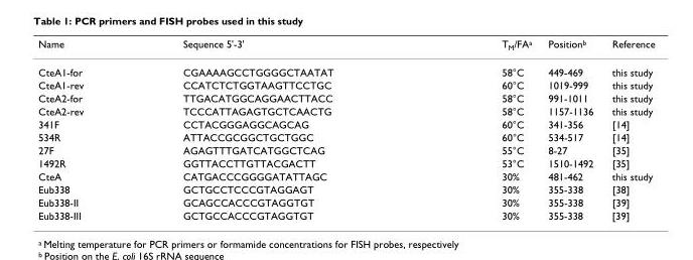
<table><thead><tr><td>Name</td><td>Sequence 5&#x27;-3&#x27;</td><td>TM/FAa</td><td>Positionb</td><td>Reference</td></tr></thead><tbody><tr><td>CteA1-for</td><td>CGAAAAGCCTGGGGCTAATAT</td><td>58°C</td><td>449-469</td><td>this study</td></tr><tr><td>CteA1-rev</td><td>CCATCTCTGGTAAGTTCCTGC</td><td>60°C</td><td>1019-999</td><td>this study</td></tr><tr><td>CteA2-for</td><td>TTGACATGGCAGGAACTTACC</td><td>58°C</td><td>991-1011</td><td>this study</td></tr><tr><td>CteA2-rev</td><td>TCCCATTAGAGTGCTCAACTG</td><td>58°C</td><td>1157-1136</td><td>this study</td></tr><tr><td>341F</td><td>CCTACGGGAGGCAGCAG</td><td>60°C</td><td>341-356</td><td>[14]</td></tr><tr><td>534R</td><td>ATTACCGCGGCTGCTGGC</td><td>60°C</td><td>534-517</td><td>[14]</td></tr><tr><td>27F</td><td>AGAGTTTGATCATGGCTCAG</td><td>55°C</td><td>8-27</td><td>[35]</td></tr><tr><td>1492R</td><td>GGTTACCTTGTTACGACTT</td><td>53°C</td><td>1510-1492</td><td>[35]</td></tr><tr><td>CteA</td><td>CATGACCCGGGGATATTAGC</td><td>30%</td><td>481-462</td><td>this study</td></tr><tr><td>Eub338</td><td>GCTGCCTCCCGTAGGAGT</td><td>30%</td><td>355-338</td><td>[38]</td></tr><tr><td>Eub338-II</td><td>GCAGCCACCCGTAGGTGT</td><td>30%</td><td>355-338</td><td>[39]</td></tr><tr><td>Eub338-III</td><td>GCTGCCACCCGTAGGTGT</td><td>30%</td><td>355-338</td><td>[39]</td></tr></tbody></table>